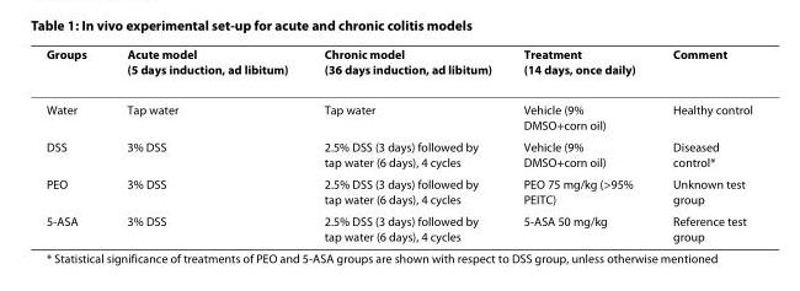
<table><thead><tr><td>Groups</td><td>Acute model (5 days induction, ad libitum)</td><td>Chronic model (36 days induction, ad libitum)</td><td>Treatment (14 days, once daily)</td><td>Comment</td></tr></thead><tbody><tr><td>Water</td><td>Tap water</td><td>Tap water</td><td>Vehicle (9% DMSO+corn oil)</td><td>Healthy control</td></tr><tr><td>DSS</td><td>3% DSS</td><td>2.5% DSS (3 days) followed by tap water (6 days), 4 cycles</td><td>Vehicle (9% DMSO+corn oil)</td><td>Diseased control*</td></tr><tr><td>PEO</td><td>3% DSS</td><td>2.5% DSS (3 days) followed by tap water (6 days), 4 cycles</td><td>PEO 75 mg/kg (&gt;95% PEITC)</td><td>Unknown test group</td></tr><tr><td>5-ASA</td><td>3% DSS</td><td>2.5% DSS (3 days) followed by tap water (6 days), 4 cycles</td><td>5-ASA 50 mg/kg</td><td>Reference test group</td></tr></tbody></table>